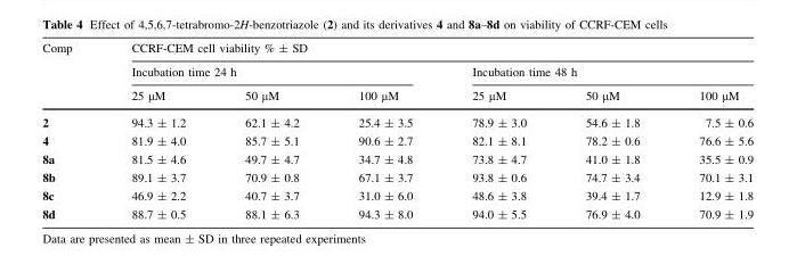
<table><thead><tr><td rowspan="3">Comp</td><td colspan="6">CCRF-CEM cell viability % ± SD</td></tr><tr><td colspan="3">Incubation time 24 h</td><td colspan="3">Incubation time 48 h</td></tr><tr><td>25 μM</td><td>50 μM</td><td>100 μM</td><td>25 μM</td><td>50 μM</td><td>100 μM</td></tr></thead><tbody><tr><td>2</td><td>94.3 ± 1.2</td><td>62.1 ± 4.2</td><td>25.4 ± 3.5</td><td>78.9 ± 3.0</td><td>54.6 ± 1.8</td><td>7.5 ± 0.6</td></tr><tr><td>4</td><td>81.9 ± 4.0</td><td>85.7 ± 5.1</td><td>90.6 ± 2.7</td><td>82.1 ± 8.1</td><td>78.2 ± 0.6</td><td>76.6 ± 5.6</td></tr><tr><td>8a</td><td>81.5 ± 4.6</td><td>49.7 ± 4.7</td><td>34.7 ± 4.8</td><td>73.8 ± 4.7</td><td>41.0 ± 1.8</td><td>35.5 ± 0.9</td></tr><tr><td>8b</td><td>89.1 ± 3.7</td><td>70.9 ± 0.8</td><td>67.1 ± 3.7</td><td>93.8 ± 0.6</td><td>74.7 ± 3.4</td><td>70.1 ± 3.1</td></tr><tr><td>8c</td><td>46.9 ± 2.2</td><td>40.7 ± 3.7</td><td>31.0 ± 6.0</td><td>48.6 ± 3.8</td><td>39.4 ± 1.7</td><td>12.9 ± 1.8</td></tr><tr><td>8d</td><td>88.7 ± 0.5</td><td>88.1 ± 6.3</td><td>94.3 ± 8.0</td><td>94.0 ± 5.5</td><td>76.9 ± 4.0</td><td>70.9 ± 1.9</td></tr></tbody></table>